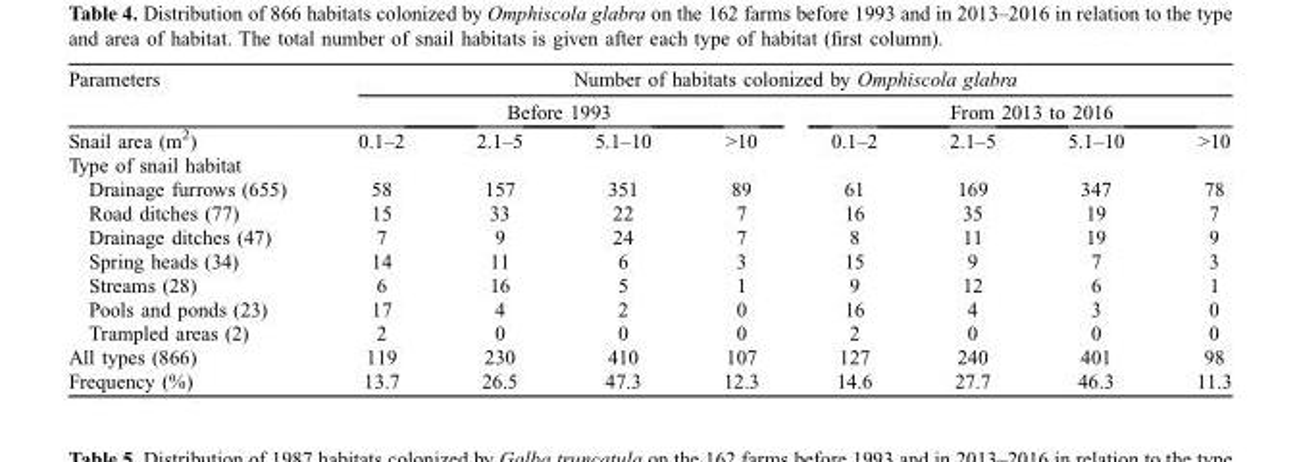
<table><thead><tr><td rowspan="3">Parameters Snail area (m<sup>2</sup>)</td><td colspan="8">Number of habitats colonized by Omphiscola glabra</td></tr><tr><td colspan="4">Before 1993</td><td colspan="4">From 2013 to 2016</td></tr><tr><td>0.1–2</td><td>2.1–5</td><td>5.1–10</td><td>&gt;10</td><td>0.1–2</td><td>2.1–5</td><td>5.1–10</td><td>&gt;10</td></tr></thead><tbody><tr><td colspan="9">Type of snail habitat</td></tr><tr><td>Drainage furrows (655)</td><td>58</td><td>157</td><td>351</td><td>89</td><td>61</td><td>169</td><td>347</td><td>78</td></tr><tr><td>Road ditches (77)</td><td>15</td><td>33</td><td>22</td><td>7</td><td>16</td><td>35</td><td>19</td><td>7</td></tr><tr><td>Drainage ditches (47)</td><td>7</td><td>9</td><td>24</td><td>7</td><td>8</td><td>11</td><td>19</td><td>9</td></tr><tr><td>Spring heads (34)</td><td>14</td><td>11</td><td>6</td><td>3</td><td>15</td><td>9</td><td>7</td><td>3</td></tr><tr><td>Streams (28)</td><td>6</td><td>16</td><td>5</td><td>1</td><td>9</td><td>12</td><td>6</td><td>1</td></tr><tr><td>Pools and ponds (23)</td><td>17</td><td>4</td><td>2</td><td>0</td><td>16</td><td>4</td><td>3</td><td>0</td></tr><tr><td>Trampled areas (2)</td><td>2</td><td>0</td><td>0</td><td>0</td><td>2</td><td>0</td><td>0</td><td>0</td></tr><tr><td>All types (866)</td><td>119</td><td>230</td><td>410</td><td>107</td><td>127</td><td>240</td><td>401</td><td>98</td></tr><tr><td>Frequency (%)</td><td>13.7</td><td>26.5</td><td>47.3</td><td>12.3</td><td>14.6</td><td>27.7</td><td>46.3</td><td>11.3</td></tr></tbody></table>